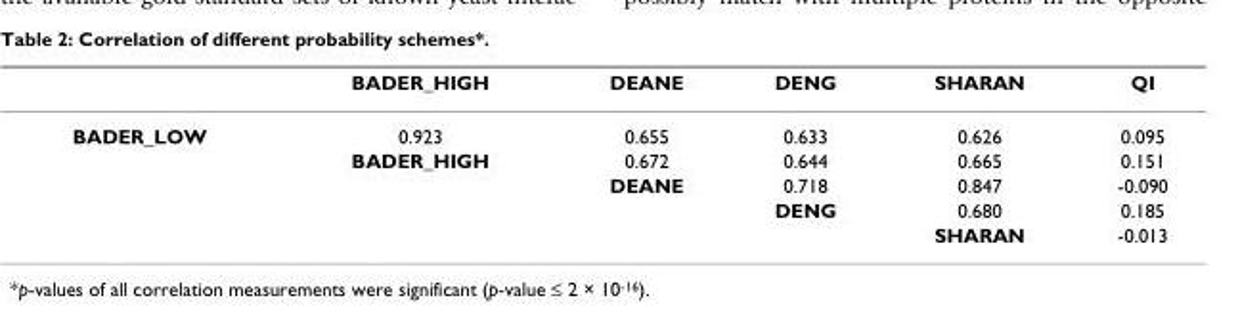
<table><thead><tr><td></td><td>BADER_HIGH</td><td>DEANE</td><td>DENG</td><td>SHARAN</td><td>QI</td></tr></thead><tbody><tr><td rowspan="5">BADER_LOW</td><td>0.923</td><td>0.655</td><td>0.633</td><td>0.626</td><td>0.095</td></tr><tr><td>BADER_HIGH</td><td>0.672</td><td>0.644</td><td>0.665</td><td>0.151</td></tr><tr><td></td><td>DEANE</td><td>0.718</td><td>0.847</td><td>-0.090</td></tr><tr><td></td><td></td><td>DENG</td><td>0.680</td><td>0.185</td></tr><tr><td></td><td></td><td></td><td>SHARAN</td><td>-0.013</td></tr></tbody></table>